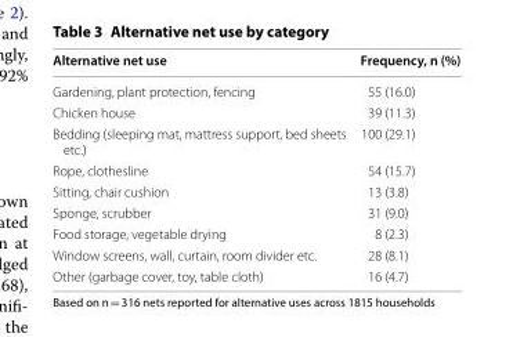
<table><thead><tr><td>Alternative net use</td><td>Frequency, n (%)</td></tr></thead><tbody><tr><td>Gardening, plant protection, fencing</td><td>55 (16.0)</td></tr><tr><td>Chicken house</td><td>39 (11.3)</td></tr><tr><td>Bedding (sleeping mat, mattress support, bed sheets etc.)</td><td>100 (29.1)</td></tr><tr><td>Rope, clothesline</td><td>54 (15.7)</td></tr><tr><td>Sitting, chair cushion</td><td>13 (3.8)</td></tr><tr><td>Sponge, scrubber</td><td>31 (9.0)</td></tr><tr><td>Food storage, vegetable drying</td><td>8 (2.3)</td></tr><tr><td>Window screens, wall, curtain, room divider etc.</td><td>28 (8.1)</td></tr><tr><td>Other (garbage cover, toy, table cloth)</td><td>16 (4.7)</td></tr></tbody></table>